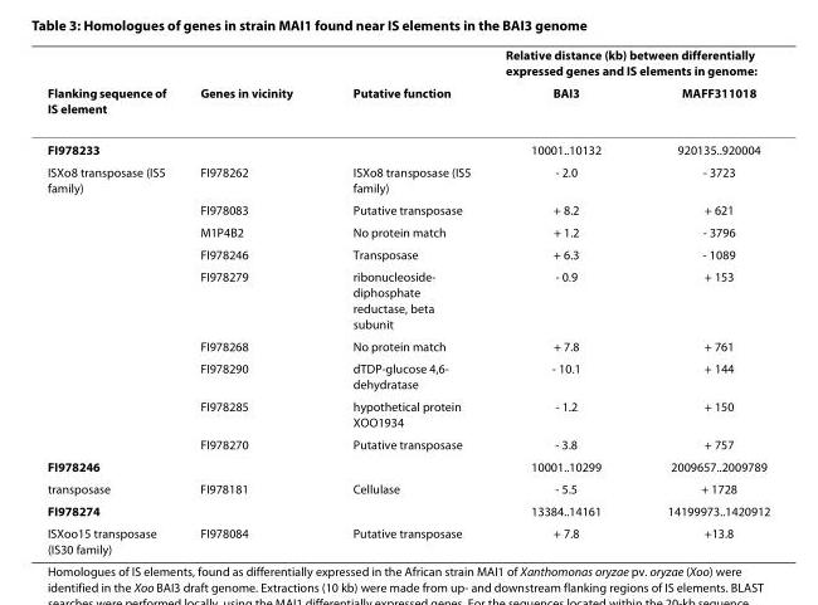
<table><thead><tr><td rowspan="2">Flanking sequence of IS element</td><td rowspan="2">Genes in vicinity</td><td rowspan="2">Putative function</td><td colspan="2">Relative distance (kb) between differentially expressed genes and IS elements in genome:</td></tr><tr><td>BAI3</td><td>MAFF311018</td></tr></thead><tbody><tr><td>FI978233</td><td></td><td></td><td>10001..10132</td><td>920135..920004</td></tr><tr><td rowspan="9">ISXo8 transposase (IS5 family)</td><td>FI978262</td><td>ISXo8 transposase (IS5 family)</td><td>- 2.0</td><td>- 3723</td></tr><tr><td>FI978083</td><td>Putative transposase</td><td>+ 8.2</td><td>+ 621</td></tr><tr><td>M1P4B2</td><td>No protein match</td><td>+ 1.2</td><td>- 3796</td></tr><tr><td>FI978246</td><td>Transposase</td><td>+ 6.3</td><td>- 1089</td></tr><tr><td>FI978279</td><td>ribonucleoside- diphosphate reductase, beta subunit</td><td>- 0.9</td><td>+ 153</td></tr><tr><td>FI978268</td><td>No protein match</td><td>+ 7.8</td><td>+ 761</td></tr><tr><td>FI978290</td><td>dTDP-glucose 4,6- dehydratase</td><td>- 10.1</td><td>+ 144</td></tr><tr><td>FI978285</td><td>hypothetical protein XOO1934</td><td>- 1.2</td><td>+ 150</td></tr><tr><td>FI978270</td><td>Putative transposase</td><td>- 3.8</td><td>+ 757</td></tr><tr><td>FI978246</td><td></td><td></td><td>10001..10299</td><td>2009657..2009789</td></tr><tr><td>transposase</td><td>FI978181</td><td>Cellulase</td><td>- 5.5</td><td>+ 1728</td></tr><tr><td>FI978274</td><td></td><td></td><td>13384..14161</td><td>14199973..1420912</td></tr><tr><td>ISXoo15 transposase (IS30 family)</td><td>FI978084</td><td>Putative transposase</td><td>+ 7.8</td><td>+13.8</td></tr></tbody></table>